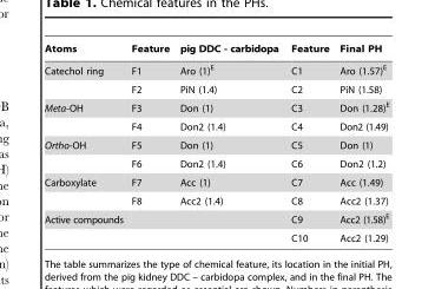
<table><thead><tr><td>Atoms</td><td>Feature</td><td>pig DDC - carbidopa</td><td>Feature</td><td>Final PH</td></tr></thead><tbody><tr><td rowspan="2">Catechol ring</td><td>F1</td><td>Aro (1)<sup>E</sup></td><td>C1</td><td>Aro (1.57)<sup>E</sup></td></tr><tr><td>F2</td><td>PiN (1.4)</td><td>C2</td><td>PiN (1.58)</td></tr><tr><td rowspan="2">Meta-OH</td><td>F3</td><td>Don (1)</td><td>C3</td><td>Don (1.28)<sup>E</sup></td></tr><tr><td>F4</td><td>Don2 (1.4)</td><td>C4</td><td>Don2 (1.49)</td></tr><tr><td rowspan="2">Ortho-OH</td><td>F5</td><td>Don (1)</td><td>C5</td><td>Don (1)</td></tr><tr><td>F6</td><td>Don2 (1.4)</td><td>C6</td><td>Don2 (1.2)</td></tr><tr><td rowspan="2">Carboxylate</td><td>F7</td><td>Acc (1)</td><td>C7</td><td>Acc (1.49)</td></tr><tr><td>F8</td><td>Acc2 (1.4)</td><td>C8</td><td>Acc2 (1.37)</td></tr><tr><td rowspan="2">Active compounds</td><td></td><td></td><td>C9</td><td>Acc2 (1.58)<sup>E</sup></td></tr><tr><td></td><td></td><td>C10</td><td>Acc2 (1.29)</td></tr></tbody></table>